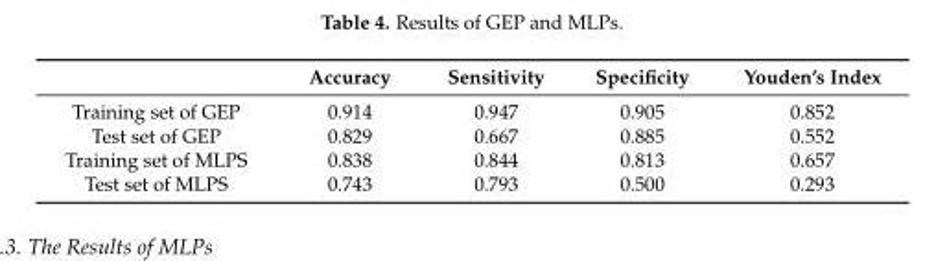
<table><thead><tr><td></td><td>Accuracy</td><td>Sensitivity</td><td>Specificity</td><td>Youden’s Index</td></tr></thead><tbody><tr><td>Training set of GEP</td><td>0.914</td><td>0.947</td><td>0.905</td><td>0.852</td></tr><tr><td>Test set of GEP</td><td>0.829</td><td>0.667</td><td>0.885</td><td>0.552</td></tr><tr><td>Training set of MLPS</td><td>0.838</td><td>0.844</td><td>0.813</td><td>0.657</td></tr><tr><td>Test set of MLPS</td><td>0.743</td><td>0.793</td><td>0.500</td><td>0.293</td></tr></tbody></table>